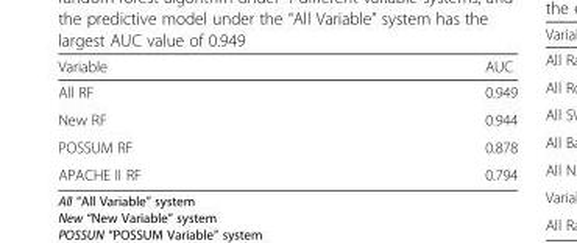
<table><thead><tr><td>Variable</td><td>AUC</td></tr></thead><tbody><tr><td>All RF</td><td>0.949</td></tr><tr><td>New RF</td><td>0.944</td></tr><tr><td>POSSUM RF</td><td>0.878</td></tr><tr><td>APACHE II RF</td><td>0.794</td></tr></tbody></table>